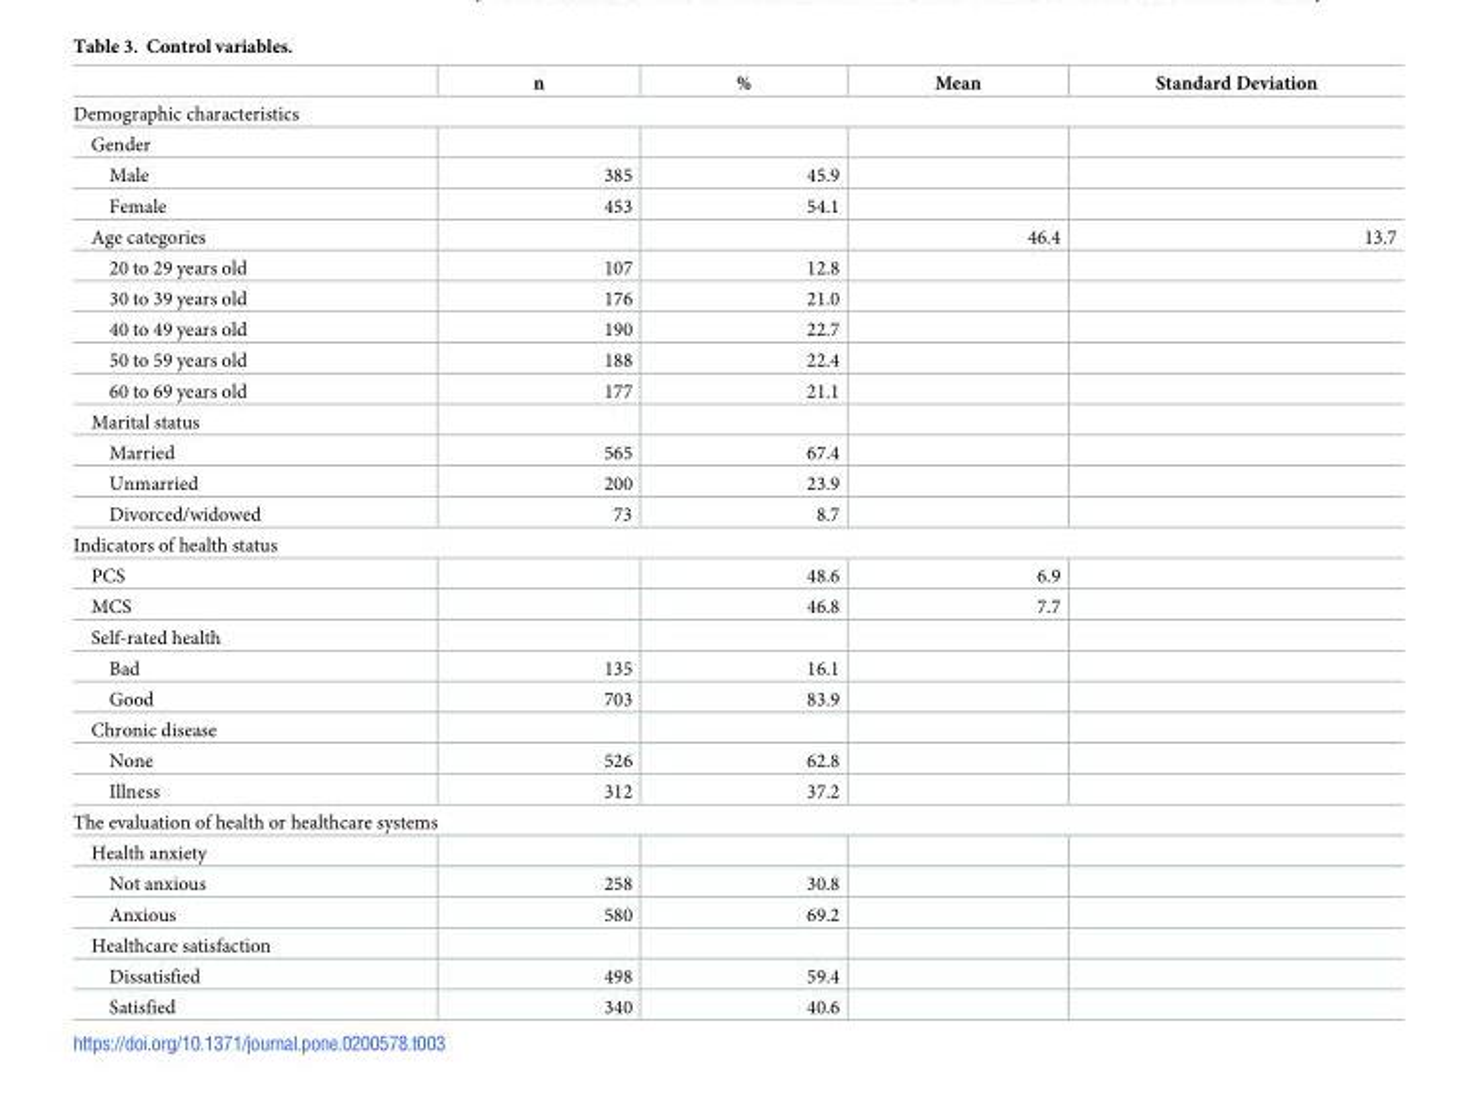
<table><thead><tr><td></td><td>n</td><td>%</td><td>Mean</td><td>Standard Deviation</td></tr></thead><tbody><tr><td colspan="5">Demographic characteristics</td></tr><tr><td colspan="5">Gender</td></tr><tr><td>Male</td><td>385</td><td>45.9</td><td></td><td></td></tr><tr><td>Female</td><td>453</td><td>54.1</td><td></td><td></td></tr><tr><td>Age categories</td><td></td><td></td><td>46.4</td><td>13.7</td></tr><tr><td>20 to 29 years old</td><td>107</td><td>12.8</td><td></td><td></td></tr><tr><td>30 to 39 years old</td><td>176</td><td>21.0</td><td></td><td></td></tr><tr><td>40 to 49 years old</td><td>190</td><td>22.7</td><td></td><td></td></tr><tr><td>50 to 59 years old</td><td>188</td><td>22.4</td><td></td><td></td></tr><tr><td>60 to 69 years old</td><td>177</td><td>21.1</td><td></td><td></td></tr><tr><td colspan="5">Marital status</td></tr><tr><td>Married</td><td>565</td><td>67.4</td><td></td><td></td></tr><tr><td>Unmarried</td><td>200</td><td>23.9</td><td></td><td></td></tr><tr><td>Divorced/widowed</td><td>73</td><td>8.7</td><td></td><td></td></tr><tr><td colspan="5">Indicators of health status</td></tr><tr><td>PCS</td><td></td><td>48.6</td><td>6.9</td><td></td></tr><tr><td>MCS</td><td></td><td>46.8</td><td>7.7</td><td></td></tr><tr><td colspan="5">Self-rated health</td></tr><tr><td>Bad</td><td>135</td><td>16.1</td><td></td><td></td></tr><tr><td>Good</td><td>703</td><td>83.9</td><td></td><td></td></tr><tr><td colspan="5">Chronic disease</td></tr><tr><td>None</td><td>526</td><td>62.8</td><td></td><td></td></tr><tr><td>Illness</td><td>312</td><td>37.2</td><td></td><td></td></tr><tr><td colspan="5">The evaluation of health or healthcare systems</td></tr><tr><td colspan="5">Health anxiety</td></tr><tr><td>Not anxious</td><td>258</td><td>30.8</td><td></td><td></td></tr><tr><td>Anxious</td><td>580</td><td>69.2</td><td></td><td></td></tr><tr><td colspan="5">Healthcare satisfaction</td></tr><tr><td>Dissatisfied</td><td>498</td><td>59.4</td><td></td><td></td></tr><tr><td>Satisfied</td><td>340</td><td>40.6</td><td></td><td></td></tr></tbody></table>